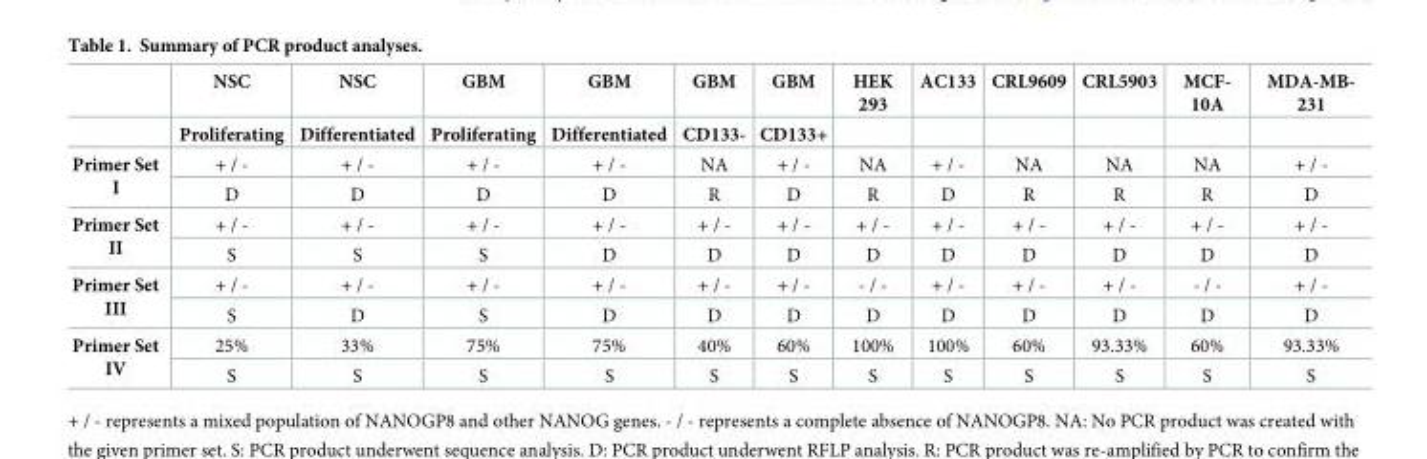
<table><thead><tr><td rowspan="2"></td><td rowspan="2">NSC Proliferating</td><td rowspan="2">NSC Differentiated</td><td rowspan="2">GBM Proliferating</td><td rowspan="2">GBM Differentiated</td><td rowspan="2">GBM CD133-</td><td rowspan="2">GBM CD133+</td><td rowspan="2">HEK 293</td><td rowspan="2">AC133</td><td rowspan="2">CRL9609</td><td rowspan="2">CRL5903</td><td rowspan="2">MCF- 10A</td><td rowspan="2">MDA-MB- 231</td></tr><tr></tr></thead><tbody><tr><td rowspan="2">Primer Set I</td><td>+ / -</td><td>+ / -</td><td>+ / -</td><td>+ / -</td><td>NA</td><td>+ / -</td><td>NA</td><td>+ / -</td><td>NA</td><td>NA</td><td>NA</td><td>+ / -</td></tr><tr><td>D</td><td>D</td><td>D</td><td>D</td><td>R</td><td>D</td><td>R</td><td>D</td><td>R</td><td>R</td><td>R</td><td>D</td></tr><tr><td rowspan="2">Primer Set II</td><td>+ / -</td><td>+ / -</td><td>+ / -</td><td>+ / -</td><td>+ / -</td><td>+ / -</td><td>+ / -</td><td>+ / -</td><td>+ / -</td><td>+ / -</td><td>+ / -</td><td>+ / -</td></tr><tr><td>S</td><td>S</td><td>S</td><td>D</td><td>D</td><td>D</td><td>D</td><td>D</td><td>D</td><td>D</td><td>D</td><td>D</td></tr><tr><td rowspan="2">Primer Set III</td><td>+ / -</td><td>+ / -</td><td>+ / -</td><td>+ / -</td><td>+ / -</td><td>+ / -</td><td>- / -</td><td>+ / -</td><td>+ / -</td><td>+ / -</td><td>- / -</td><td>+ / -</td></tr><tr><td>S</td><td>D</td><td>S</td><td>D</td><td>D</td><td>D</td><td>D</td><td>D</td><td>D</td><td>D</td><td>D</td><td>D</td></tr><tr><td rowspan="2">Primer Set IV</td><td>25%</td><td>33%</td><td>75%</td><td>75%</td><td>40%</td><td>60%</td><td>100%</td><td>100%</td><td>60%</td><td>93.33%</td><td>60%</td><td>93.33%</td></tr><tr><td>S</td><td>S</td><td>S</td><td>S</td><td>S</td><td>S</td><td>S</td><td>S</td><td>S</td><td>S</td><td>S</td><td>S</td></tr></tbody></table>